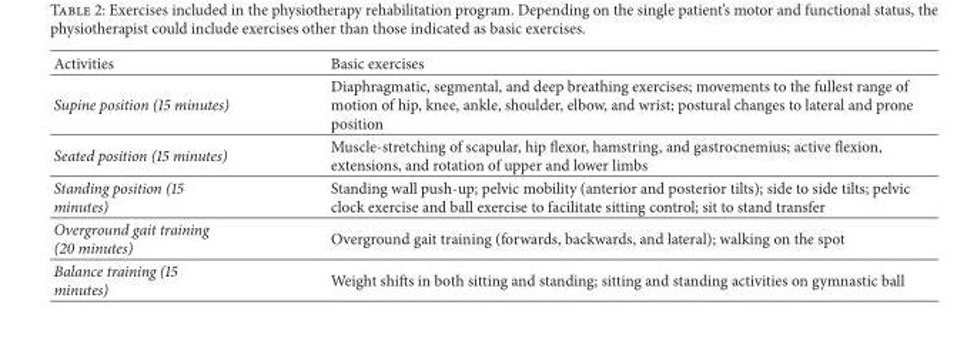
<table><thead><tr><td>Activities</td><td>Basic exercises</td></tr></thead><tbody><tr><td>Supine position (15 minutes)</td><td>Diaphragmatic, segmental, and deep breathing exercises; movements to the fullest range of motion of hip, knee, ankle, shoulder, elbow, and wrist; postural changes to lateral and prone position</td></tr><tr><td>Seated position (15 minutes)</td><td>Muscle-stretching of scapular, hip flexor, hamstring, and gastrocnemius; active flexion, extensions, and rotation of upper and lower limbs</td></tr><tr><td>Standing position (15 minutes)</td><td>Standing wall push-up; pelvic mobility (anterior and posterior tilts); side to side tilts; pelvic clock exercise and ball exercise to facilitate sitting control; sit to stand transfer</td></tr><tr><td>Overground gait training (20 minutes)</td><td>Overground gait training (forwards, backwards, and lateral); walking on the spot</td></tr><tr><td>Balance training (15 minutes)</td><td>Weight shifts in both sitting and standing; sitting and standing activities on gymnastic ball</td></tr></tbody></table>